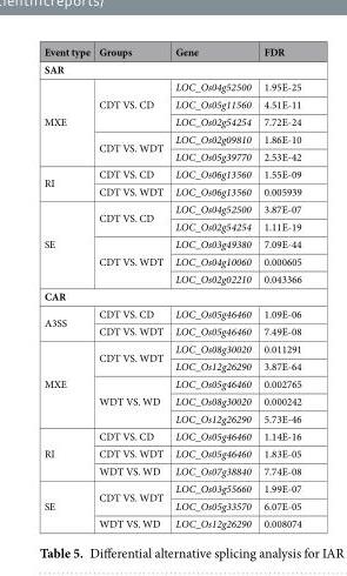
<table><thead><tr><td>Event type</td><td>Groups</td><td>Gene</td><td>FDR</td></tr></thead><tbody><tr><td colspan="4">SAR</td></tr><tr><td rowspan="5">MXE</td><td rowspan="3">CDT VS. CD</td><td>LOC_Os04g52500</td><td>1.95E-25</td></tr><tr><td>LOC_Os05g11560</td><td>4.51E-11</td></tr><tr><td>LOC_Os02g54254</td><td>7.72E-24</td></tr><tr><td rowspan="2">CDT VS. WDT</td><td>LOC_Os02g09810</td><td>1.86E-10</td></tr><tr><td>LOC_Os05g39770</td><td>2.53E-42</td></tr><tr><td rowspan="2">RI</td><td>CDT VS. CD</td><td>LOC_Os06g13560</td><td>1.55E-09</td></tr><tr><td>CDT VS. WDT</td><td>LOC_Os06g13560</td><td>0.005939</td></tr><tr><td rowspan="5">SE</td><td rowspan="2">CDT VS. CD</td><td>LOC_Os04g52500</td><td>3.87E-07</td></tr><tr><td>LOC_Os02g54254</td><td>1.11E-19</td></tr><tr><td rowspan="3">CDT VS. WDT</td><td>LOC_Os03g49380</td><td>7.09E-44</td></tr><tr><td>LOC_Os04g10060</td><td>0.000605</td></tr><tr><td>LOC_Os02g02210</td><td>0.043366</td></tr><tr><td colspan="4">CAR</td></tr><tr><td rowspan="2">A3SS</td><td>CDT VS. CD</td><td>LOC_Os05g46460</td><td>1.09E-06</td></tr><tr><td>CDT VS. WDT</td><td>LOC_Os05g46460</td><td>7.49E-08</td></tr><tr><td rowspan="5">MXE</td><td rowspan="2">CDT VS. WDT</td><td>LOC_Os08g30020</td><td>0.011291</td></tr><tr><td>LOC_Os12g26290</td><td>3.87E-64</td></tr><tr><td rowspan="3">WDT VS. WD</td><td>LOC_Os05g46460</td><td>0.002765</td></tr><tr><td>LOC_Os08g30020</td><td>0.000242</td></tr><tr><td>LOC_Os12g26290</td><td>5.73E-46</td></tr><tr><td rowspan="3">RI</td><td>CDT VS. CD</td><td>LOC_Os05g46460</td><td>1.14E-16</td></tr><tr><td>CDT VS. WDT</td><td>LOC_Os05g46460</td><td>1.83E-05</td></tr><tr><td>WDT VS. WD</td><td>LOC_Os07g38840</td><td>7.74E-08</td></tr><tr><td rowspan="3">SE</td><td rowspan="2">CDT VS. WDT</td><td>LOC_Os03g55660</td><td>1.99E-07</td></tr><tr><td>LOC_Os05g33570</td><td>6.07E-05</td></tr><tr><td>WDT VS. WD</td><td>LOC_Os12g26290</td><td>0.008074</td></tr></tbody></table>